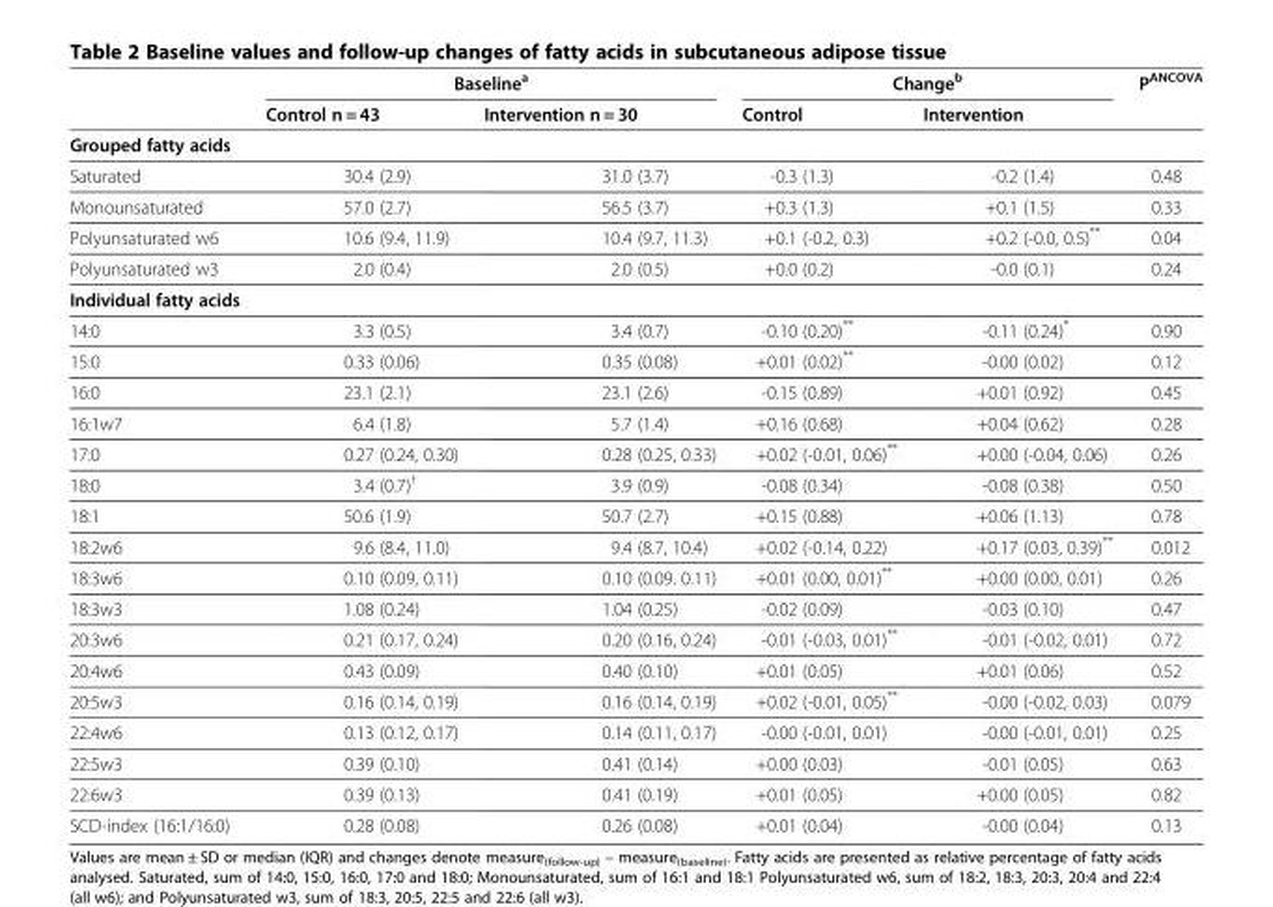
<table><thead><tr><td rowspan="2"></td><td colspan="2">Baseline<sup>a</sup></td><td colspan="2">Change<sup>b</sup></td><td rowspan="2">P<sup>ANCOVA</sup></td></tr><tr><td>Control n = 43</td><td>Intervention n = 30</td><td>Control</td><td>Intervention</td></tr></thead><tbody><tr><td colspan="6">Grouped fatty acids</td></tr><tr><td>Saturated</td><td>30.4 (2.9)</td><td>31.0 (3.7)</td><td>-0.3 (1.3)</td><td>-0.2 (1.4)</td><td>0.48</td></tr><tr><td>Monounsaturated</td><td>57.0 (2.7)</td><td>56.5 (3.7)</td><td>+0.3 (1.3)</td><td>+0.1 (1.5)</td><td>0.33</td></tr><tr><td>Polyunsaturated w6</td><td>10.6 (9.4, 11.9)</td><td>10.4 (9.7, 11.3)</td><td>+0.1 (-0.2, 0.3)</td><td>+0.2 (-0.0, 0.5)**</td><td>0.04</td></tr><tr><td>Polyunsaturated w3</td><td>2.0 (0.4)</td><td>2.0 (0.5)</td><td>+0.0 (0.2)</td><td>-0.0 (0.1)</td><td>0.24</td></tr><tr><td colspan="6">Individual fatty acids</td></tr><tr><td>14:0</td><td>3.3 (0.5)</td><td>3.4 (0.7)</td><td>-0.10 (0.20)**</td><td>-0.11 (0.24)*</td><td>0.90</td></tr><tr><td>15:0</td><td>0.33 (0.06)</td><td>0.35 (0.08)</td><td>+0.01 (0.02)**</td><td>-0.00 (0.02)</td><td>0.12</td></tr><tr><td>16:0</td><td>23.1 (2.1)</td><td>23.1 (2.6)</td><td>-0.15 (0.89)</td><td>+0.01 (0.92)</td><td>0.45</td></tr><tr><td>16:1w7</td><td>6.4 (1.8)</td><td>5.7 (1.4)</td><td>+0.16 (0.68)</td><td>+0.04 (0.62)</td><td>0.28</td></tr><tr><td>17:0</td><td>0.27 (0.24, 0.30)</td><td>0.28 (0.25, 0.33)</td><td>+0.02 (-0.01, 0.06)**</td><td>+0.00 (-0.04, 0.06)</td><td>0.26</td></tr><tr><td>18:0</td><td>3.4 (0.7)<sup>†</sup></td><td>3.9 (0.9)</td><td>-0.08 (0.34)</td><td>-0.08 (0.38)</td><td>0.50</td></tr><tr><td>18:1</td><td>50.6 (1.9)</td><td>50.7 (2.7)</td><td>+0.15 (0.88)</td><td>+0.06 (1.13)</td><td>0.78</td></tr><tr><td>18:2w6</td><td>9.6 (8.4, 11.0)</td><td>9.4 (8.7, 10.4)</td><td>+0.02 (-0.14, 0.22)</td><td>+0.17 (0.03, 0.39)**</td><td>0.012</td></tr><tr><td>18:3w6</td><td>0.10 (0.09, 0.11)</td><td>0.10 (0.09. 0.11)</td><td>+0.01 (0.00, 0.01)**</td><td>+0.00 (0.00, 0.01)</td><td>0.26</td></tr><tr><td>18:3w3</td><td>1.08 (0.24)</td><td>1.04 (0.25)</td><td>-0.02 (0.09)</td><td>-0.03 (0.10)</td><td>0.47</td></tr><tr><td>20:3w6</td><td>0.21 (0.17, 0.24)</td><td>0.20 (0.16, 0.24)</td><td>-0.01 (-0.03, 0.01)**</td><td>-0.01 (-0.02, 0.01)</td><td>0.72</td></tr><tr><td>20:4w6</td><td>0.43 (0.09)</td><td>0.40 (0.10)</td><td>+0.01 (0.05)</td><td>+0.01 (0.06)</td><td>0.52</td></tr><tr><td>20:5w3</td><td>0.16 (0.14, 0.19)</td><td>0.16 (0.14, 0.19)</td><td>+0.02 (-0.01, 0.05)**</td><td>-0.00 (-0.02, 0.03)</td><td>0.079</td></tr><tr><td>22:4w6</td><td>0.13 (0.12, 0.17)</td><td>0.14 (0.11, 0.17)</td><td>-0.00 (-0.01, 0.01)</td><td>-0.00 (-0.01, 0.01)</td><td>0.25</td></tr><tr><td>22:5w3</td><td>0.39 (0.10)</td><td>0.41 (0.14)</td><td>+0.00 (0.03)</td><td>-0.01 (0.05)</td><td>0.63</td></tr><tr><td>22:6w3</td><td>0.39 (0.13)</td><td>0.41 (0.19)</td><td>+0.01 (0.05)</td><td>+0.00 (0.05)</td><td>0.82</td></tr><tr><td>SCD-index (16:1/16:0)</td><td>0.28 (0.08)</td><td>0.26 (0.08)</td><td>+0.01 (0.04)</td><td>-0.00 (0.04)</td><td>0.13</td></tr></tbody></table>